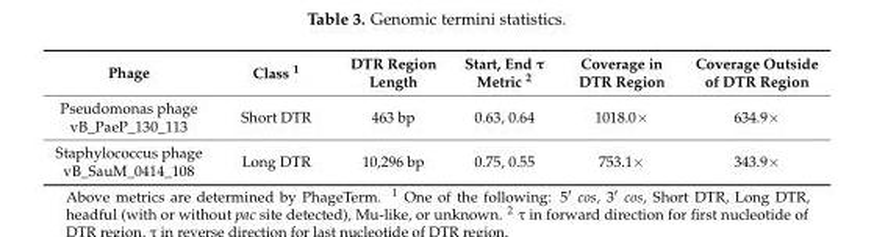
<table><thead><tr><td>Phage</td><td>Class <sup>1</sup></td><td>DTR Region Length</td><td>Start, End τ Metric <sup>2</sup></td><td>Coverage in DTR Region</td><td>Coverage Outside of DTR Region</td></tr></thead><tbody><tr><td>Pseudomonas phage vB_PaeP_130_113</td><td>Short DTR</td><td>463 bp</td><td>0.63, 0.64</td><td>1018.0×</td><td>634.9×</td></tr><tr><td>Staphylococcus phage vB_SauM_0414_108</td><td>Long DTR</td><td>10,296 bp</td><td>0.75, 0.55</td><td>753.1×</td><td>343.9×</td></tr></tbody></table>